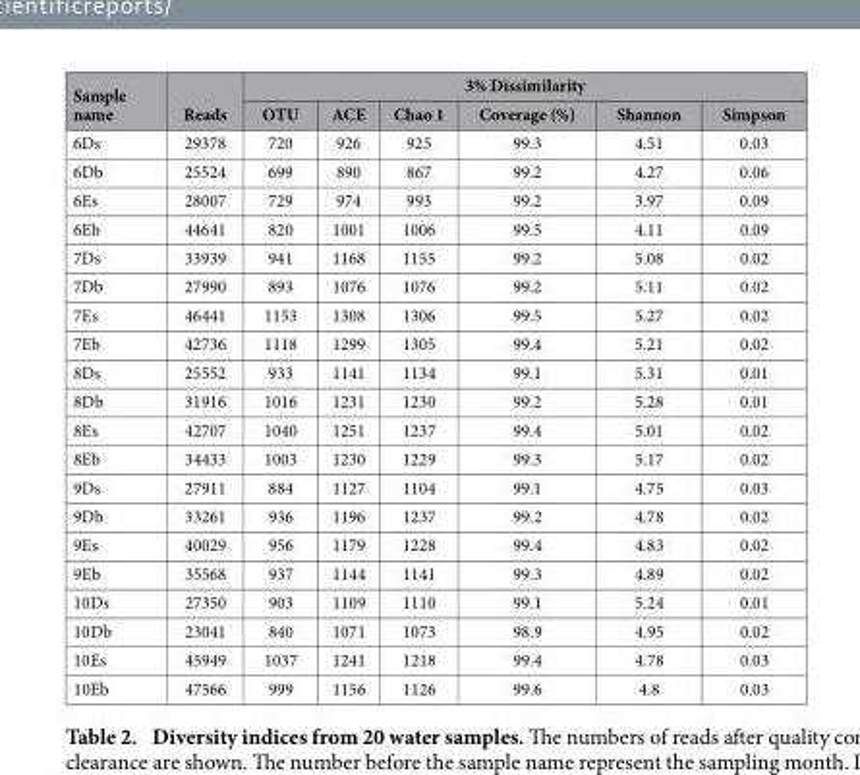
<table><thead><tr><td rowspan="2">Sample name</td><td rowspan="2">Reads</td><td colspan="6">3% Dissimilarity</td></tr><tr><td>OTU</td><td>ACE</td><td>Chao 1</td><td>Coverage (%)</td><td>Shannon</td><td>Simpson</td></tr></thead><tbody><tr><td>6Ds</td><td>29378</td><td>720</td><td>926</td><td>925</td><td>99.3</td><td>4.51</td><td>0.03</td></tr><tr><td>6Db</td><td>25524</td><td>699</td><td>890</td><td>867</td><td>99.2</td><td>4.27</td><td>0.06</td></tr><tr><td>6Es</td><td>28007</td><td>729</td><td>974</td><td>993</td><td>99.2</td><td>3.97</td><td>0.09</td></tr><tr><td>6Eb</td><td>44641</td><td>820</td><td>1001</td><td>1006</td><td>99.5</td><td>4.11</td><td>0.09</td></tr><tr><td>7Ds</td><td>33939</td><td>941</td><td>1168</td><td>1155</td><td>99.2</td><td>5.08</td><td>0.02</td></tr><tr><td>7Db</td><td>27990</td><td>893</td><td>1076</td><td>1076</td><td>99.2</td><td>5.11</td><td>0.02</td></tr><tr><td>7Es</td><td>46441</td><td>1153</td><td>1308</td><td>1306</td><td>99.5</td><td>5.27</td><td>0.02</td></tr><tr><td>7Eb</td><td>42736</td><td>1118</td><td>1299</td><td>1305</td><td>99.4</td><td>5.21</td><td>0.02</td></tr><tr><td>8Ds</td><td>25552</td><td>933</td><td>1141</td><td>1134</td><td>99.1</td><td>5.31</td><td>0.01</td></tr><tr><td>8Db</td><td>31916</td><td>1016</td><td>1231</td><td>1230</td><td>99.2</td><td>5.28</td><td>0.01</td></tr><tr><td>8Es</td><td>42707</td><td>1040</td><td>1251</td><td>1237</td><td>99.4</td><td>5.01</td><td>0.02</td></tr><tr><td>8Eb</td><td>34433</td><td>1003</td><td>1230</td><td>1229</td><td>99.3</td><td>5.17</td><td>0.02</td></tr><tr><td>9Ds</td><td>27911</td><td>884</td><td>1127</td><td>1104</td><td>99.1</td><td>4.75</td><td>0.03</td></tr><tr><td>9Db</td><td>33261</td><td>936</td><td>1196</td><td>1237</td><td>99.2</td><td>4.78</td><td>0.02</td></tr><tr><td>9Es</td><td>40029</td><td>956</td><td>1179</td><td>1228</td><td>99.4</td><td>4.83</td><td>0.02</td></tr><tr><td>9Eb</td><td>35568</td><td>937</td><td>1144</td><td>1141</td><td>99.3</td><td>4.89</td><td>0.02</td></tr><tr><td>10Ds</td><td>27350</td><td>903</td><td>1109</td><td>1110</td><td>99.1</td><td>5.24</td><td>0.01</td></tr><tr><td>10Db</td><td>23041</td><td>840</td><td>1071</td><td>1073</td><td>98.9</td><td>4.95</td><td>0.02</td></tr><tr><td>10Es</td><td>45949</td><td>1037</td><td>1241</td><td>1218</td><td>99.4</td><td>4.78</td><td>0.03</td></tr><tr><td>10Eb</td><td>47566</td><td>999</td><td>1156</td><td>1126</td><td>99.6</td><td>4.8</td><td>0.03</td></tr></tbody></table>